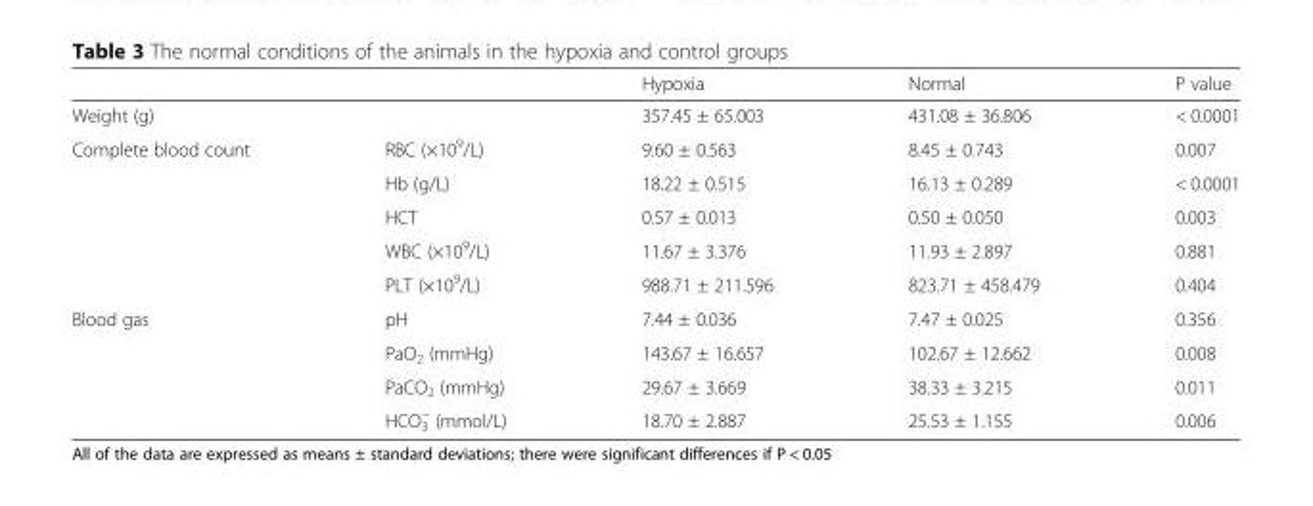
<table><thead><tr><td></td><td></td><td>Hypoxia</td><td>Normal</td><td>P value</td></tr></thead><tbody><tr><td>Weight (g)</td><td></td><td>357.45 ± 65.003</td><td>431.08 ± 36.806</td><td>&lt; 0.0001</td></tr><tr><td rowspan="5">Complete blood count</td><td>RBC (×10<sup>9</sup>/L)</td><td>9.60 ± 0.563</td><td>8.45 ± 0.743</td><td>0.007</td></tr><tr><td>Hb (g/L)</td><td>18.22 ± 0.515</td><td>16.13 ± 0.289</td><td>&lt; 0.0001</td></tr><tr><td>HCT</td><td>0.57 ± 0.013</td><td>0.50 ± 0.050</td><td>0.003</td></tr><tr><td>WBC (×10<sup>9</sup>/L)</td><td>11.67 ± 3.376</td><td>11.93 ± 2.897</td><td>0.881</td></tr><tr><td>PLT (×10<sup>9</sup>/L)</td><td>988.71 ± 211.596</td><td>823.71 ± 458.479</td><td>0.404</td></tr><tr><td rowspan="4">Blood gas</td><td>pH</td><td>7.44 ± 0.036</td><td>7.47 ± 0.025</td><td>0.356</td></tr><tr><td>PaO<sub>2</sub> (mmHg)</td><td>143.67 ± 16.657</td><td>102.67 ± 12.662</td><td>0.008</td></tr><tr><td>PaCO<sub>2</sub> (mmHg)</td><td>29.67 ± 3.669</td><td>38.33 ± 3.215</td><td>0.011</td></tr><tr><td>HCO<sub>3</sub> <sup>−</sup> (mmol/L)</td><td>18.70 ± 2.887</td><td>25.53 ± 1.155</td><td>0.006</td></tr></tbody></table>